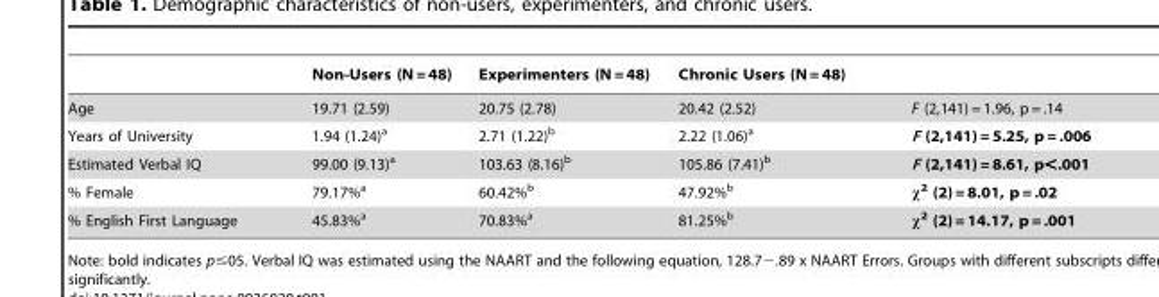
<table><thead><tr><td></td><td>Non-Users (N = 48)</td><td>Experimenters (N = 48)</td><td>Chronic Users (N = 48)</td><td></td></tr></thead><tbody><tr><td>Age</td><td>19.71 (2.59)</td><td>20.75 (2.78)</td><td>20.42 (2.52)</td><td>F (2,141) = 1.96, p = .14</td></tr><tr><td>Years of University</td><td>1.94 (1.24)<sup>a</sup></td><td>2.71 (1.22)<sup>b</sup></td><td>2.22 (1.06)<sup>a</sup></td><td>F (2,141) = 5.25, p = .006</td></tr><tr><td>Estimated Verbal IQ</td><td>99.00 (9.13)<sup>a</sup></td><td>103.63 (8.16)<sup>b</sup></td><td>105.86 (7.41)<sup>b</sup></td><td>F (2,141) = 8.61, p&lt;.001</td></tr><tr><td>% Female</td><td>79.17%<sup>a</sup></td><td>60.42%<sup>b</sup></td><td>47.92%<sup>b</sup></td><td>χ<sup>2</sup> (2) = 8.01, p = .02</td></tr><tr><td>% English First Language</td><td>45.83%<sup>a</sup></td><td>70.83%<sup>a</sup></td><td>81.25%<sup>b</sup></td><td>χ<sup>2</sup> (2) = 14.17, p = .001</td></tr></tbody></table>